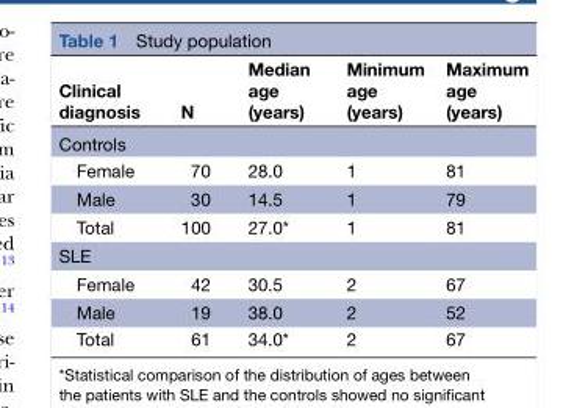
<table><thead><tr><td>Clinical diagnosis</td><td>N</td><td>Median age (years)</td><td>Minimum age (years)</td><td>Maximum age (years)</td></tr></thead><tbody><tr><td colspan="5">Controls</td></tr><tr><td>Female</td><td>70</td><td>28.0</td><td>1</td><td>81</td></tr><tr><td>Male</td><td>30</td><td>14.5</td><td>1</td><td>79</td></tr><tr><td>Total</td><td>100</td><td>27.0*</td><td>1</td><td>81</td></tr><tr><td colspan="5">SLE</td></tr><tr><td>Female</td><td>42</td><td>30.5</td><td>2</td><td>67</td></tr><tr><td>Male</td><td>19</td><td>38.0</td><td>2</td><td>52</td></tr><tr><td>Total</td><td>61</td><td>34.0*</td><td>2</td><td>67</td></tr></tbody></table>